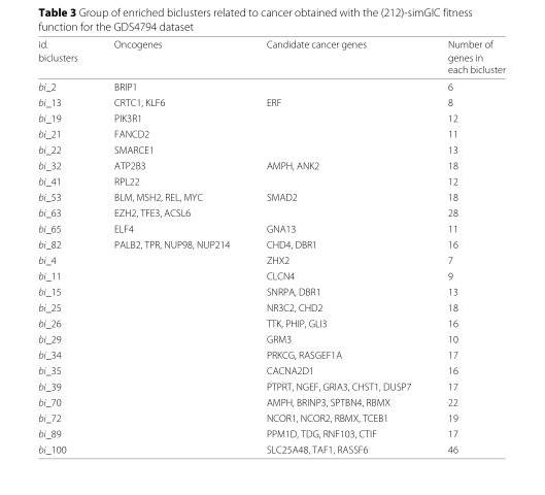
<table><thead><tr><td rowspan="3">id. biclusters</td><td rowspan="3">Oncogenes</td><td rowspan="3">Candidate cancer genes</td><td rowspan="3">Number of genes in each bicluster</td></tr><tr></tr><tr></tr></thead><tbody><tr><td>bi_2</td><td>BRIP1</td><td></td><td>6</td></tr><tr><td>bi_13</td><td>CRTC1, KLF6</td><td>ERF</td><td>8</td></tr><tr><td>bi_19</td><td>PIK3R1</td><td></td><td>12</td></tr><tr><td>bi_21</td><td>FANCD2</td><td></td><td>11</td></tr><tr><td>bi_22</td><td>SMARCE1</td><td></td><td>13</td></tr><tr><td>bi_32</td><td>ATP2B3</td><td>AMPH, ANK2</td><td>18</td></tr><tr><td>bi_41</td><td>RPL22</td><td></td><td>12</td></tr><tr><td>bi_53</td><td>BLM, MSH2, REL, MYC</td><td>SMAD2</td><td>18</td></tr><tr><td>bi_63</td><td>EZH2, TFE3, ACSL6</td><td></td><td>28</td></tr><tr><td>bi_65</td><td>ELF4</td><td>GNA13</td><td>11</td></tr><tr><td>bi_82</td><td>PALB2, TPR, NUP98, NUP214</td><td>CHD4, DBR1</td><td>16</td></tr><tr><td>bi_4</td><td></td><td>ZHX2</td><td>7</td></tr><tr><td>bi_11</td><td></td><td>CLCN4</td><td>9</td></tr><tr><td>bi_15</td><td></td><td>SNRPA, DBR1</td><td>13</td></tr><tr><td>bi_25</td><td></td><td>NR3C2, CHD2</td><td>18</td></tr><tr><td>bi_26</td><td></td><td>TTK, PHIP, GLI3</td><td>16</td></tr><tr><td>bi_29</td><td></td><td>GRM3</td><td>10</td></tr><tr><td>bi_34</td><td></td><td>PRKCG, RASGEF1A</td><td>17</td></tr><tr><td>bi_35</td><td></td><td>CACNA2D1</td><td>16</td></tr><tr><td>bi_39</td><td></td><td>PTPRT, NGEF, GRIA3, CHST1, DUSP7</td><td>17</td></tr><tr><td>bi_70</td><td></td><td>AMPH, BRINP3, SPTBN4, RBMX</td><td>22</td></tr><tr><td>bi_72</td><td></td><td>NCOR1, NCOR2, RBMX, TCEB1</td><td>19</td></tr><tr><td>bi_89</td><td></td><td>PPM1D, TDG, RNF103, CTIF</td><td>17</td></tr><tr><td>bi_100</td><td></td><td>SLC25A48, TAF1, RASSF6</td><td>46</td></tr></tbody></table>